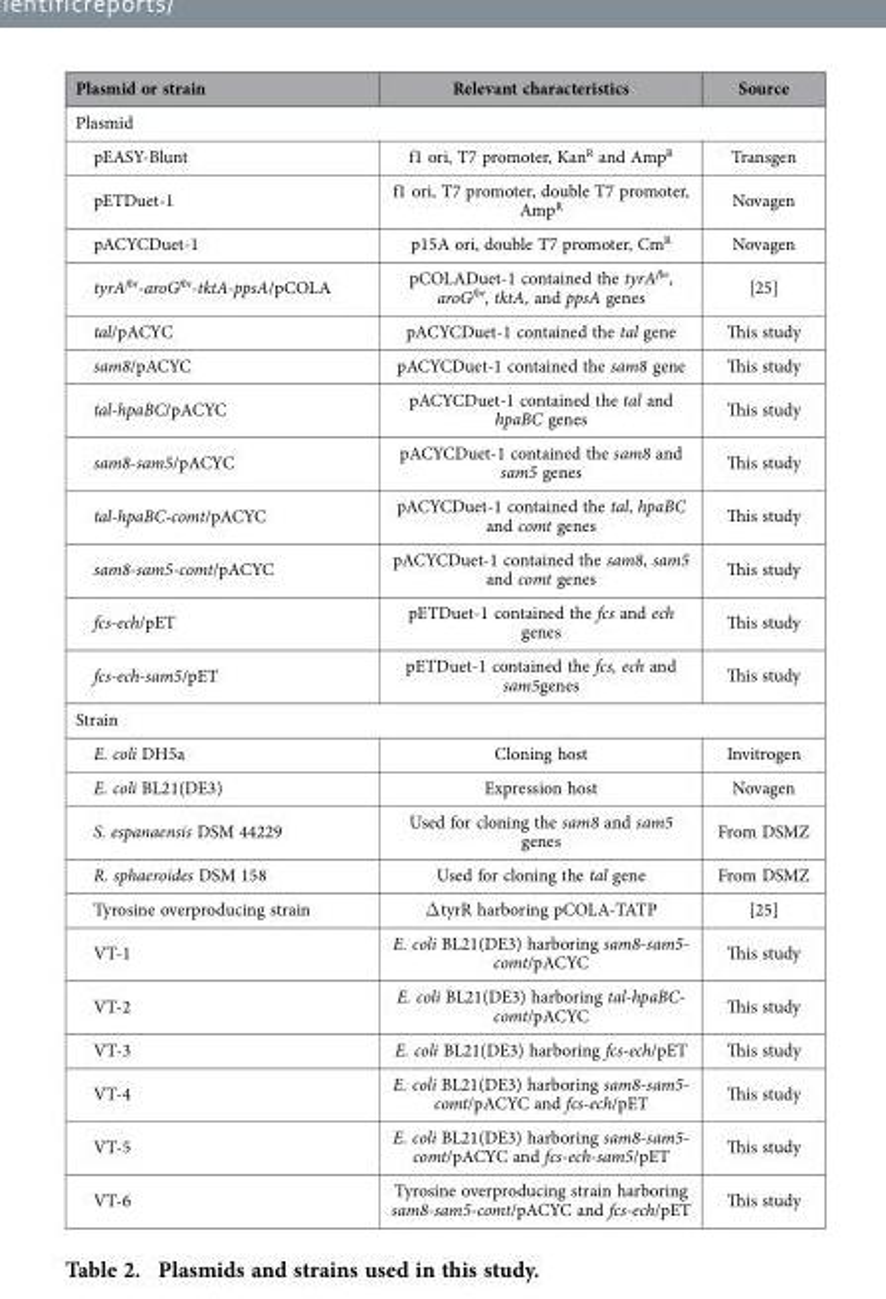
<table><thead><tr><td>Plasmid or strain</td><td>Relevant characteristics</td><td>Source</td></tr></thead><tbody><tr><td colspan="3">Plasmid</td></tr><tr><td>pEASY-Blunt</td><td>f1 ori, T7 promoter, Kan<sup>R</sup> and Amp<sup>R</sup></td><td>Transgen</td></tr><tr><td>pETDuet-1</td><td>f1 ori, T7 promoter, double T7 promoter, Amp<sup>R</sup></td><td>Novagen</td></tr><tr><td>pACYCDuet-1</td><td>p15A ori, double T7 promoter, Cm<sup>R</sup></td><td>Novagen</td></tr><tr><td>tyrA<sup>fbr</sup>-aroG<sup>fbr</sup>-tktA-ppsA/pCOLA</td><td>pCOLADuet-1 contained the tyrA<sup>fbr</sup>, aroG<sup>fbr</sup>, tktA, and ppsA genes</td><td>[25]</td></tr><tr><td>tal/pACYC</td><td>pACYCDuet-1 contained the tal gene</td><td>This study</td></tr><tr><td>sam8/pACYC</td><td>pACYCDuet-1 contained the sam8 gene</td><td>This study</td></tr><tr><td>tal-hpaBC/pACYC</td><td>pACYCDuet-1 contained the tal and hpaBC genes</td><td>This study</td></tr><tr><td>sam8-sam5/pACYC</td><td>pACYCDuet-1 contained the sam8 and sam5 genes</td><td>This study</td></tr><tr><td>tal-hpaBC-comt/pACYC</td><td>pACYCDuet-1 contained the tal, hpaBC and comt genes</td><td>This study</td></tr><tr><td>sam8-sam5-comt/pACYC</td><td>pACYCDuet-1 contained the sam8, sam5 and comt genes</td><td>This study</td></tr><tr><td>fcs-ech/pET</td><td>pETDuet-1 contained the fcs and ech genes</td><td>This study</td></tr><tr><td>fcs-ech-sam5/pET</td><td>pETDuet-1 contained the fcs, ech and sam5genes</td><td>This study</td></tr><tr><td colspan="3">Strain</td></tr><tr><td>E. coli DH5a</td><td>Cloning host</td><td>Invitrogen</td></tr><tr><td>E. coli BL21(DE3)</td><td>Expression host</td><td>Novagen</td></tr><tr><td>S. espanaensis DSM 44229</td><td>Used for cloning the sam8 and sam5 genes</td><td>From DSMZ</td></tr><tr><td>R. sphaeroides DSM 158</td><td>Used for cloning the tal gene</td><td>From DSMZ</td></tr><tr><td>Tyrosine overproducing strain</td><td>Δ tyrR harboring pCOLA-TATP</td><td>[25]</td></tr><tr><td>VT-1</td><td>E. coli BL21(DE3) harboring sam8-sam5- comt/pACYC</td><td>This study</td></tr><tr><td>VT-2</td><td>E. coli BL21(DE3) harboring tal-hpaBC- comt/pACYC</td><td>This study</td></tr><tr><td>VT-3</td><td>E. coli BL21(DE3) harboring fcs-ech/pET</td><td>This study</td></tr><tr><td>VT-4</td><td>E. coli BL21(DE3) harboring sam8-sam5- comt/pACYC and fcs-ech/pET</td><td>This study</td></tr><tr><td>VT-5</td><td>E. coli BL21(DE3) harboring sam8-sam5- comt/pACYC and fcs-ech-sam5/pET</td><td>This study</td></tr><tr><td>VT-6</td><td>Tyrosine overproducing strain harboring sam8-sam5-comt/pACYC and fcs-ech/pET</td><td>This study</td></tr></tbody></table>